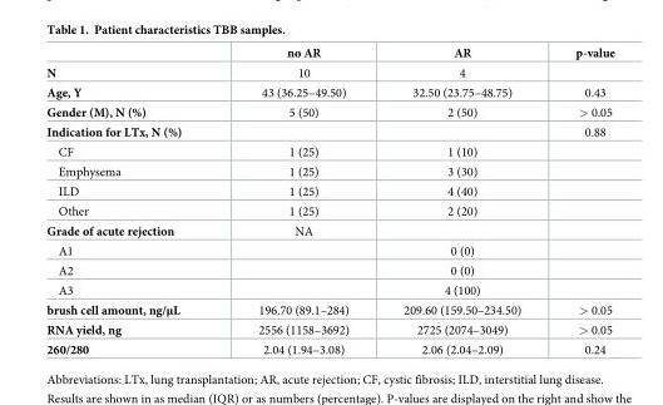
<table><thead><tr><td></td><td>no AR</td><td>AR</td><td>p-value</td></tr></thead><tbody><tr><td>N</td><td>10</td><td>4</td><td></td></tr><tr><td>Age, Y</td><td>43 (36.25–49.50)</td><td>32.50 (23.75–48.75)</td><td>0.43</td></tr><tr><td>Gender (M), N (%)</td><td>5 (50)</td><td>2 (50)</td><td>&gt; 0.05</td></tr><tr><td>Indication for LTx, N (%)</td><td></td><td></td><td>0.88</td></tr><tr><td>CF</td><td>1 (25)</td><td>1 (10)</td><td></td></tr><tr><td>Emphysema</td><td>1 (25)</td><td>3 (30)</td><td></td></tr><tr><td>ILD</td><td>1 (25)</td><td>4 (40)</td><td></td></tr><tr><td>Other</td><td>1 (25)</td><td>2 (20)</td><td></td></tr><tr><td>Grade of acute rejection</td><td>NA</td><td></td><td></td></tr><tr><td>A1</td><td></td><td>0 (0)</td><td></td></tr><tr><td>A2</td><td></td><td>0 (0)</td><td></td></tr><tr><td>A3</td><td></td><td>4 (100)</td><td></td></tr><tr><td>brush cell amount, ng/μL</td><td>196.70 (89.1–284)</td><td>209.60 (159.50–234.50)</td><td>&gt; 0.05</td></tr><tr><td>RNA yield, ng</td><td>2556 (1158–3692)</td><td>2725 (2074–3049)</td><td>&gt; 0.05</td></tr><tr><td>260/280</td><td>2.04 (1.94–3.08)</td><td>2.06 (2.04–2.09)</td><td>0.24</td></tr></tbody></table>